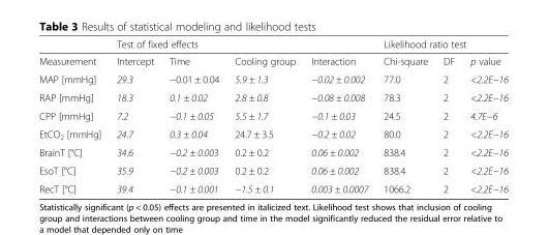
<table><thead><tr><td rowspan="2">Measurement</td><td colspan="4">Test of fixed effects</td><td colspan="3">Likelihood ratio test</td></tr><tr><td>Intercept</td><td>Time</td><td>Cooling group</td><td>Interaction</td><td>Chi-square</td><td>DF</td><td>p value</td></tr></thead><tbody><tr><td>MAP [mmHg]</td><td>29.3</td><td>−0.01 ± 0.04</td><td>5.9 ± 1.3</td><td>−0.02 ± 0.002</td><td>77.0</td><td>2</td><td>&lt;2.2E−16</td></tr><tr><td>RAP [mmHg]</td><td>18.3</td><td>0.1 ± 0.02</td><td>2.8 ± 0.8</td><td>−0.08 ± 0.008</td><td>78.3</td><td>2</td><td>&lt;2.2E−16</td></tr><tr><td>CPP [mmHg]</td><td>7.2</td><td>−0.1 ± 0.05</td><td>5.5 ± 1.7</td><td>−0.1 ± 0.03</td><td>24.5</td><td>2</td><td>4.7E−6</td></tr><tr><td>EtCO<sub>2</sub> [mmHg]</td><td>24.7</td><td>0.3 ± 0.04</td><td>24.7 ± 3.5</td><td>−0.2 ± 0.02</td><td>80.0</td><td>2</td><td>&lt;2.2E−16</td></tr><tr><td>BrainT [°C]</td><td>34.6</td><td>−0.2 ± 0.003</td><td>0.2 ± 0.2</td><td>0.06 ± 0.002</td><td>838.4</td><td>2</td><td>&lt;2.2E−16</td></tr><tr><td>EsoT [°C]</td><td>35.9</td><td>−0.2 ± 0.003</td><td>0.2 ± 0.2</td><td>0.06 ± 0.002</td><td>838.4</td><td>2</td><td>&lt;2.2E−16</td></tr><tr><td>RecT [°C]</td><td>39.4</td><td>−0.1 ± 0.001</td><td>−1.5 ± 0.1</td><td>0.003 ± 0.0007</td><td>1066.2</td><td>2</td><td>&lt;2.2E−16</td></tr></tbody></table>